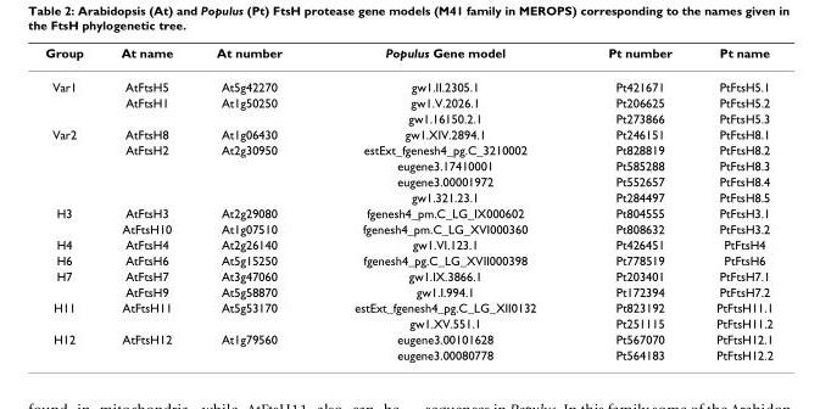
<table><thead><tr><td>Group</td><td>At name</td><td>At number</td><td>Populus Gene model</td><td>Pt number</td><td>Pt name</td></tr></thead><tbody><tr><td rowspan="3">Var1</td><td>AtFtsH5</td><td>At5g42270</td><td>gw1.II.2305.1</td><td>Pt421671</td><td>PtFtsH5.1</td></tr><tr><td>AtFtsH1</td><td>At1g50250</td><td>gw1.V.2026.1</td><td>Pt206625</td><td>PtFtsH5.2</td></tr><tr><td></td><td></td><td>gw1.16150.2.1</td><td>Pt273866</td><td>PtFtsH5.3</td></tr><tr><td rowspan="5">Var2</td><td>AtFtsH8</td><td>At1g06430</td><td>gw1.XIV.2894.1</td><td>Pt246151</td><td>PtFtsH8.1</td></tr><tr><td>AtFtsH2</td><td>At2g30950</td><td>estExt_fgenesh4_pg.C_3210002</td><td>Pt828819</td><td>PtFtsH8.2</td></tr><tr><td></td><td></td><td>eugene3.17410001</td><td>Pt585288</td><td>PtFtsH8.3</td></tr><tr><td></td><td></td><td>eugene3.00001972</td><td>Pt552657</td><td>PtFtsH8.4</td></tr><tr><td></td><td></td><td>gw1.321.23.1</td><td>Pt284497</td><td>PtFtsH8.5</td></tr><tr><td rowspan="2">H3</td><td>AtFtsH3</td><td>At2g29080</td><td>fgenesh4_pm.C_LG_IX000602</td><td>Pt804555</td><td>PtFtsH3.1</td></tr><tr><td>AtFtsH10</td><td>At1g07510</td><td>fgenesh4_pm.C_LG_XVI000360</td><td>Pt808632</td><td>PtFtsH3.2</td></tr><tr><td>H4</td><td>AtFtsH4</td><td>At2g26140</td><td>gw1.VI.123.1</td><td>Pt426451</td><td>PtFtsH4</td></tr><tr><td>H6</td><td>AtFtsH6</td><td>At5g15250</td><td>fgenesh4_pg.C_LG_XVII000398</td><td>Pt778519</td><td>PtFtsH6</td></tr><tr><td rowspan="2">H7</td><td>AtFtsH7</td><td>At3g47060</td><td>gw1.IX.3866.1</td><td>Pt203401</td><td>PtFtsH7.1</td></tr><tr><td>AtFtsH9</td><td>At5g58870</td><td>gw1.I.994.1</td><td>Pt172394</td><td>PtFtsH7.2</td></tr><tr><td rowspan="2">H11</td><td>AtFtsH11</td><td>At5g53170</td><td>estExt_fgenesh4_pg.C_LG_XII0132</td><td>Pt823192</td><td>PtFtsH11.1</td></tr><tr><td></td><td></td><td>gw1.XV.551.1</td><td>Pt251115</td><td>PtFtsH11.2</td></tr><tr><td rowspan="2">H12</td><td>AtFtsH12</td><td>At1g79560</td><td>eugene3.00101628</td><td>Pt567070</td><td>PtFtsH12.1</td></tr><tr><td></td><td></td><td>eugene3.00080778</td><td>Pt564183</td><td>PtFtsH12.2</td></tr></tbody></table>